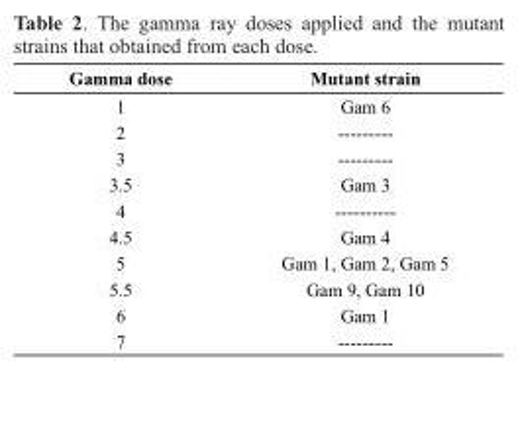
<table><thead><tr><td>gamma dose</td><td>Mutant strain</td></tr></thead><tbody><tr><td>1</td><td>Gam 6</td></tr><tr><td>2</td><td>---------</td></tr><tr><td>3</td><td>---------</td></tr><tr><td>3.5</td><td>Gam 3</td></tr><tr><td>4</td><td>----------</td></tr><tr><td>4.5</td><td>Gam 4</td></tr><tr><td>5</td><td>Gam 1, Gam 2, Gam 5</td></tr><tr><td>5.5</td><td>Gam 9, Gam 10</td></tr><tr><td>6</td><td>Gam 1</td></tr><tr><td>7</td><td>---------</td></tr></tbody></table>